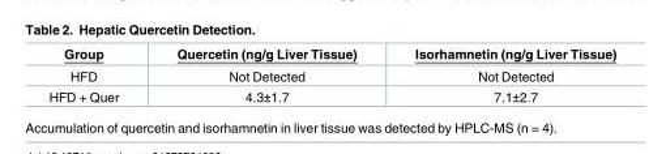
<table><thead><tr><td>Group</td><td>Quercetin (ng/g Liver Tissue)</td><td>Isorhamnetin (ng/g Liver Tissue)</td></tr></thead><tbody><tr><td>HFD</td><td>Not Detected</td><td>Not Detected</td></tr><tr><td>HFD + Quer</td><td>4.3±1.7</td><td>7.1±2.7</td></tr></tbody></table>